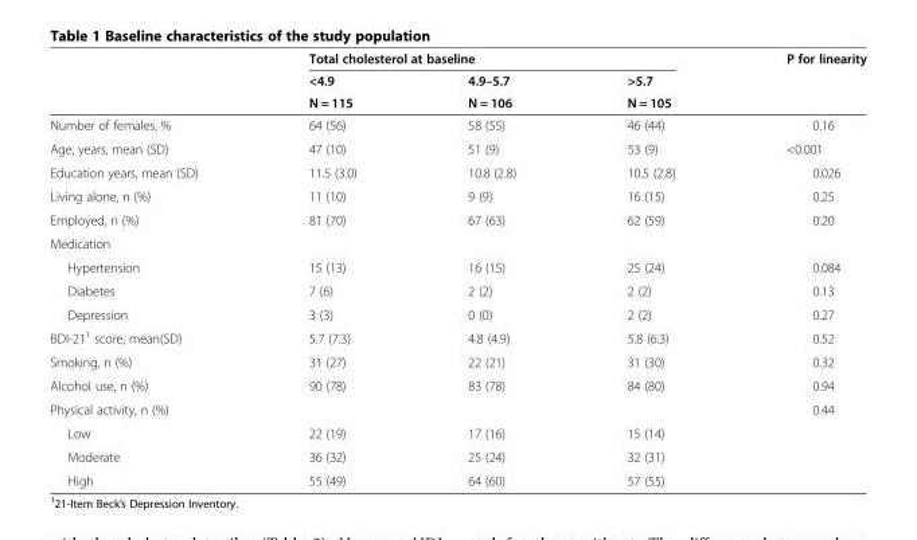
<table><thead><tr><td rowspan="3"></td><td colspan="3">Total cholesterol at baseline</td><td rowspan="3">P for linearity</td></tr><tr><td rowspan="2">&lt;4.9 N = 115</td><td rowspan="2">4.9–5.7 N = 106</td><td rowspan="2">&gt;5.7 N = 105</td></tr><tr></tr></thead><tbody><tr><td>Number of females, %</td><td>64 (56)</td><td>58 (55)</td><td>46 (44)</td><td>0.16</td></tr><tr><td>Age, years, mean (SD)</td><td>47 (10)</td><td>51 (9)</td><td>53 (9)</td><td>&lt;0.001</td></tr><tr><td>Education years, mean (SD)</td><td>11.5 (3.0)</td><td>10.8 (2.8)</td><td>10.5 (2.8)</td><td>0.026</td></tr><tr><td>Living alone, n (%)</td><td>11 (10)</td><td>9 (9)</td><td>16 (15)</td><td>0.25</td></tr><tr><td>Employed, n (%)</td><td>81 (70)</td><td>67 (63)</td><td>62 (59)</td><td>0.20</td></tr><tr><td colspan="5">Medication</td></tr><tr><td>Hypertension</td><td>15 (13)</td><td>16 (15)</td><td>25 (24)</td><td>0.084</td></tr><tr><td>Diabetes</td><td>7 (6)</td><td>2 (2)</td><td>2 (2)</td><td>0.13</td></tr><tr><td>Depression</td><td>3 (3)</td><td>0 (0)</td><td>2 (2)</td><td>0.27</td></tr><tr><td>BDI-21<sup>1</sup> score, mean(SD)</td><td>5.7 (7.3)</td><td>4.8 (4.9)</td><td>5.8 (6.3)</td><td>0.52</td></tr><tr><td>Smoking, n (%)</td><td>31 (27)</td><td>22 (21)</td><td>31 (30)</td><td>0.32</td></tr><tr><td>Alcohol use, n (%)</td><td>90 (78)</td><td>83 (78)</td><td>84 (80)</td><td>0.94</td></tr><tr><td>Physical activity, n (%)</td><td></td><td></td><td></td><td>0.44</td></tr><tr><td>Low</td><td>22 (19)</td><td>17 (16)</td><td>15 (14)</td><td></td></tr><tr><td>Moderate</td><td>36 (32)</td><td>25 (24)</td><td>32 (31)</td><td></td></tr><tr><td>High</td><td>55 (49)</td><td>64 (60)</td><td>57 (55)</td><td></td></tr></tbody></table>